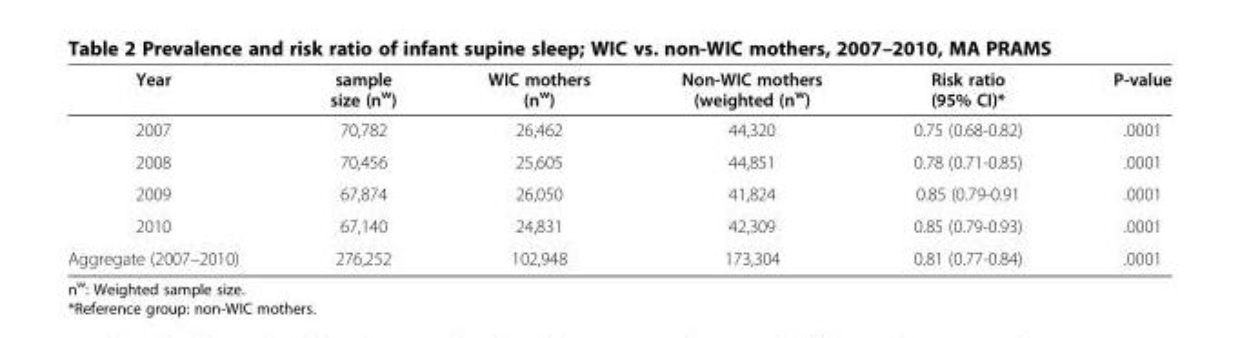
<table><thead><tr><td>Year</td><td>sample size (n<sup>w</sup>)</td><td>WIC mothers (n<sup>w</sup>)</td><td>Non-WIC mothers (weighted (n<sup>w</sup>)</td><td>Risk ratio (95% CI)*</td><td>P-value</td></tr></thead><tbody><tr><td>2007</td><td>70,782</td><td>26,462</td><td>44,320</td><td>0.75 (0.68-0.82)</td><td>.0001</td></tr><tr><td>2008</td><td>70,456</td><td>25,605</td><td>44,851</td><td>0.78 (0.71-0.85)</td><td>.0001</td></tr><tr><td>2009</td><td>67,874</td><td>26,050</td><td>41,824</td><td>0.85 (0.79-0.91</td><td>.0001</td></tr><tr><td>2010</td><td>67,140</td><td>24,831</td><td>42,309</td><td>0.85 (0.79-0.93)</td><td>.0001</td></tr><tr><td>Aggregate (2007–2010)</td><td>276,252</td><td>102,948</td><td>173,304</td><td>0.81 (0.77-0.84)</td><td>.0001</td></tr></tbody></table>